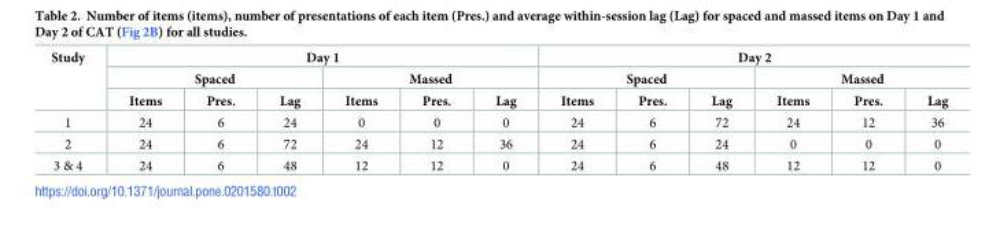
<table><thead><tr><td rowspan="3">Study</td><td colspan="6">Day 1</td><td colspan="6">Day 2</td></tr><tr><td colspan="3">Spaced</td><td colspan="3">Massed</td><td colspan="3">Spaced</td><td colspan="3">Massed</td></tr><tr><td>Items</td><td>Pres.</td><td>Lag</td><td>Items</td><td>Pres.</td><td>Lag</td><td>Items</td><td>Pres.</td><td>Lag</td><td>Items</td><td>Pres.</td><td>Lag</td></tr></thead><tbody><tr><td>1</td><td>24</td><td>6</td><td>24</td><td>0</td><td>0</td><td>0</td><td>24</td><td>6</td><td>72</td><td>24</td><td>12</td><td>36</td></tr><tr><td>2</td><td>24</td><td>6</td><td>72</td><td>24</td><td>12</td><td>36</td><td>24</td><td>6</td><td>24</td><td>0</td><td>0</td><td>0</td></tr><tr><td>3 &amp; 4</td><td>24</td><td>6</td><td>48</td><td>12</td><td>12</td><td>0</td><td>24</td><td>6</td><td>48</td><td>12</td><td>12</td><td>0</td></tr></tbody></table>